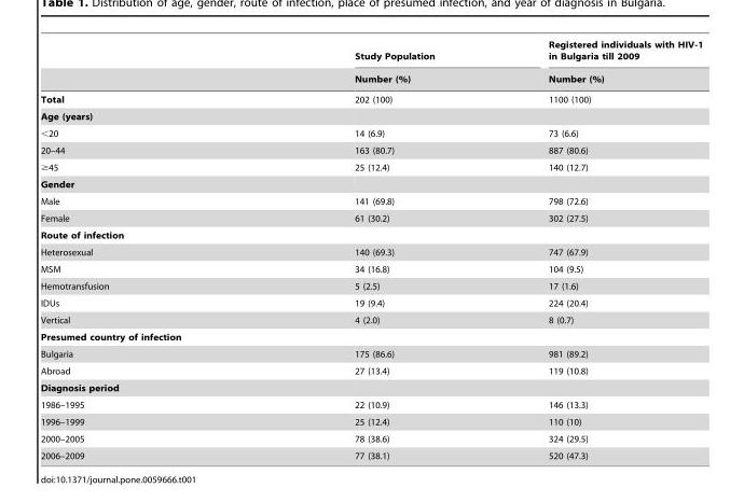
<table><thead><tr><td rowspan="2"></td><td rowspan="2">Study Population Number (%)</td><td rowspan="2">Registered individuals with HIV-1 in Bulgaria till 2009 Number (%)</td></tr><tr></tr></thead><tbody><tr><td>Total</td><td>202 (100)</td><td>1100 (100)</td></tr><tr><td colspan="3">Age (years)</td></tr><tr><td>&lt;20</td><td>14 (6.9)</td><td>73 (6.6)</td></tr><tr><td>20–44</td><td>163 (80.7)</td><td>887 (80.6)</td></tr><tr><td>≥45</td><td>25 (12.4)</td><td>140 (12.7)</td></tr><tr><td colspan="3">Gender</td></tr><tr><td>Male</td><td>141 (69.8)</td><td>798 (72.6)</td></tr><tr><td>Female</td><td>61 (30.2)</td><td>302 (27.5)</td></tr><tr><td colspan="3">Route of infection</td></tr><tr><td>Heterosexual</td><td>140 (69.3)</td><td>747 (67.9)</td></tr><tr><td>MSM</td><td>34 (16.8)</td><td>104 (9.5)</td></tr><tr><td>Hemotransfusion</td><td>5 (2.5)</td><td>17 (1.6)</td></tr><tr><td>IDUs</td><td>19 (9.4)</td><td>224 (20.4)</td></tr><tr><td>Vertical</td><td>4 (2.0)</td><td>8 (0.7)</td></tr><tr><td colspan="3">Presumed country of infection</td></tr><tr><td>Bulgaria</td><td>175 (86.6)</td><td>981 (89.2)</td></tr><tr><td>Abroad</td><td>27 (13.4)</td><td>119 (10.8)</td></tr><tr><td colspan="3">Diagnosis period</td></tr><tr><td>1986–1995</td><td>22 (10.9)</td><td>146 (13.3)</td></tr><tr><td>1996–1999</td><td>25 (12.4)</td><td>110 (10)</td></tr><tr><td>2000–2005</td><td>78 (38.6)</td><td>324 (29.5)</td></tr><tr><td>2006–2009</td><td>77 (38.1)</td><td>520 (47.3)</td></tr></tbody></table>